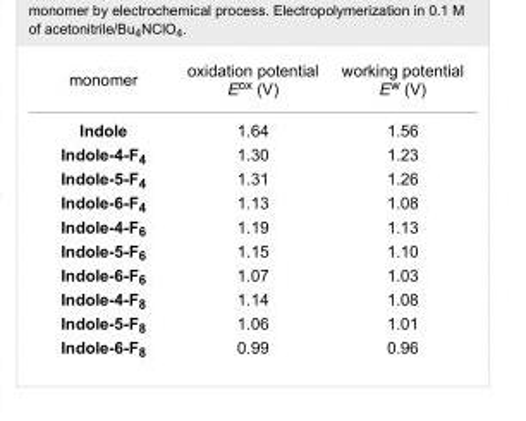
<table><tbody><tr><td>monomer</td><td>oxidation potential E<sup>ox</sup> (V)</td><td>working potential E<sup>w</sup> (V)</td></tr><tr><td>Indole</td><td>1.64</td><td>1.56</td></tr><tr><td>Indole-4-F<sub>4</sub></td><td>1.30</td><td>1.23</td></tr><tr><td>Indole-5-F<sub>4</sub></td><td>1.31</td><td>1.26</td></tr><tr><td>Indole-6-F<sub>4</sub></td><td>1.13</td><td>1.08</td></tr><tr><td>Indole-4-F<sub>6</sub></td><td>1.19</td><td>1.13</td></tr><tr><td>Indole-5-F<sub>6</sub></td><td>1.15</td><td>1.10</td></tr><tr><td>Indole-6-F<sub>6</sub></td><td>1.07</td><td>1.03</td></tr><tr><td>Indole-4-F<sub>8</sub></td><td>1.14</td><td>1.08</td></tr><tr><td>Indole-5-F<sub>8</sub></td><td>1.06</td><td>1.01</td></tr><tr><td>Indole-6-F<sub>8</sub></td><td>0.99</td><td>0.96</td></tr></tbody></table>